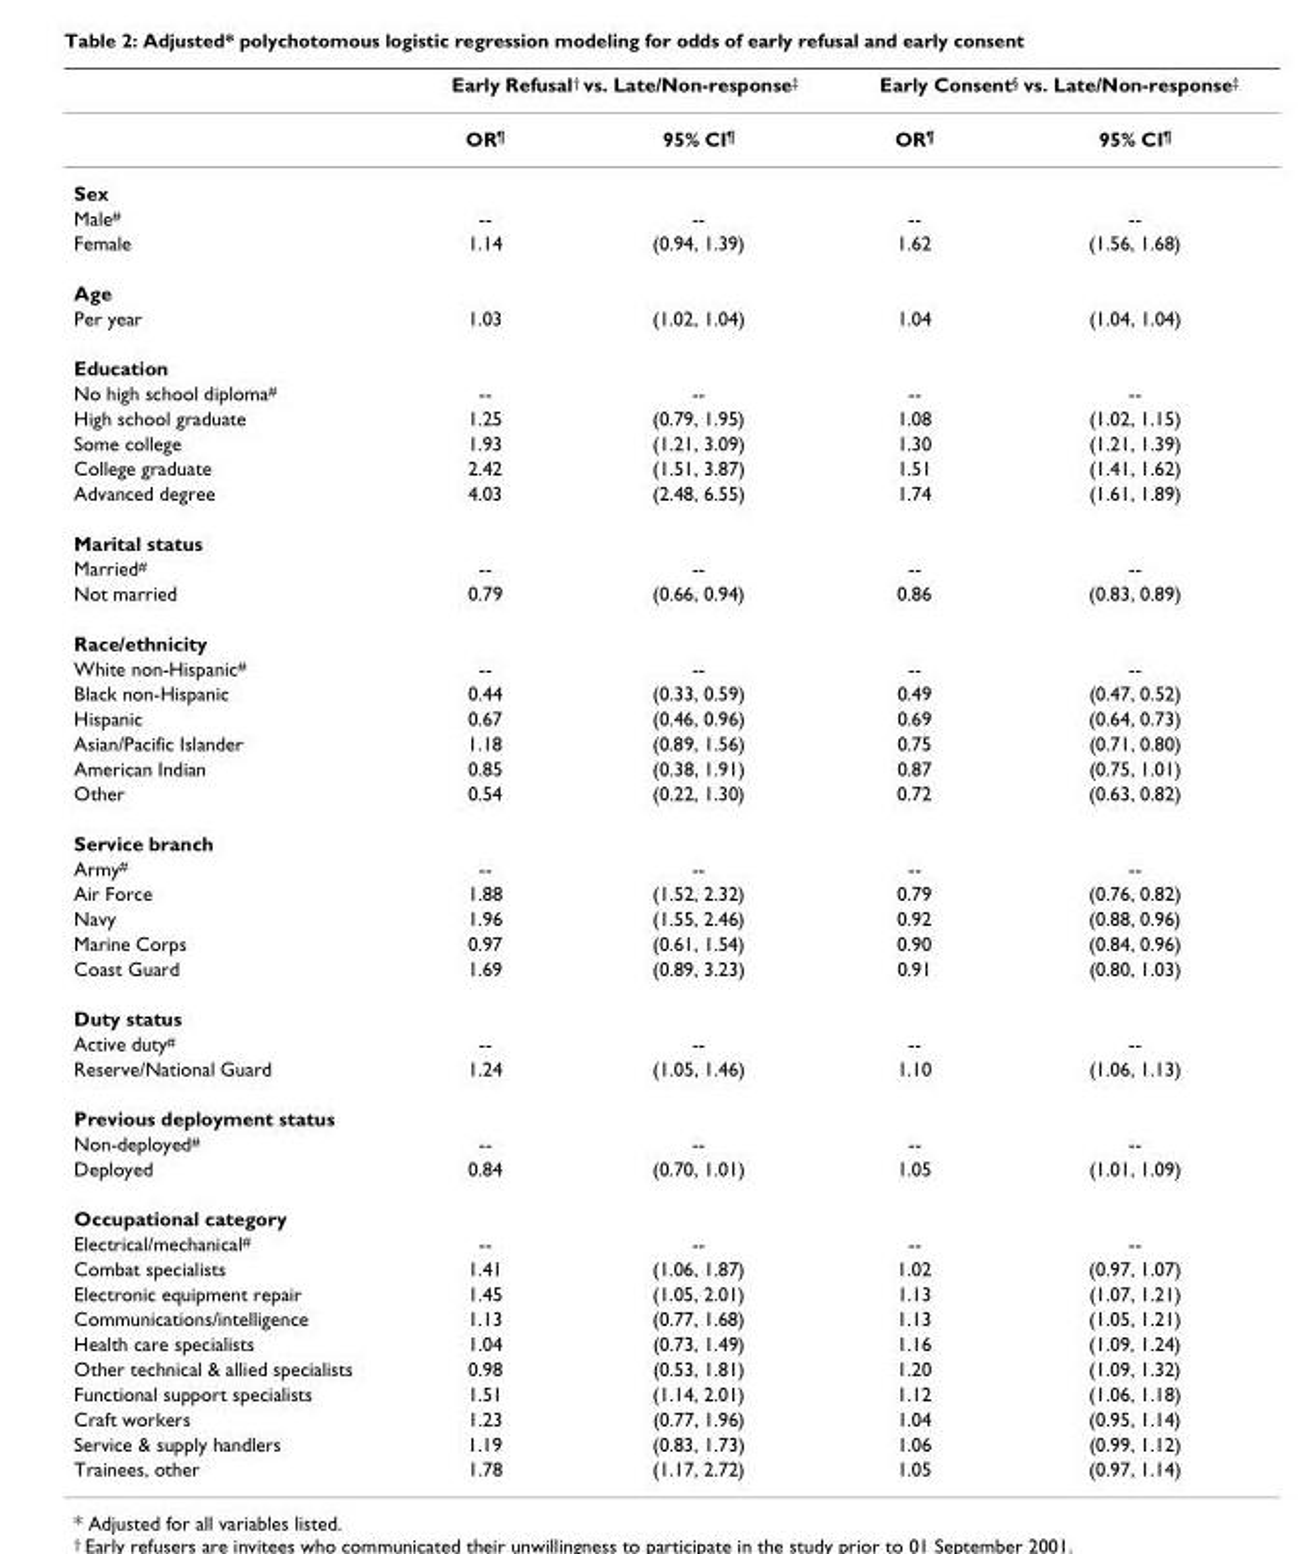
<table><thead><tr><td rowspan="2"></td><td colspan="2">Early Refusal<sup>†</sup> vs. Late/Non-response<sup>‡</sup></td><td colspan="2">Early Consent<sup>§</sup> vs. Late/Non-response<sup>‡</sup></td></tr><tr><td>OR<sup>¶</sup></td><td>95% CI<sup>¶</sup></td><td>OR<sup>¶</sup></td><td>95% CI<sup>¶</sup></td></tr></thead><tbody><tr><td colspan="5">Sex</td></tr><tr><td>Male<sup>#</sup></td><td>--</td><td>--</td><td>--</td><td>--</td></tr><tr><td>Female</td><td>1.14</td><td>(0.94, 1.39)</td><td>1.62</td><td>(1.56, 1.68)</td></tr><tr><td colspan="5">Age</td></tr><tr><td>Per year</td><td>1.03</td><td>(1.02, 1.04)</td><td>1.04</td><td>(1.04, 1.04)</td></tr><tr><td colspan="5">Education</td></tr><tr><td>No high school diploma<sup>#</sup></td><td>--</td><td>--</td><td>--</td><td>--</td></tr><tr><td>High school graduate</td><td>1.25</td><td>(0.79, 1.95)</td><td>1.08</td><td>(1.02, 1.15)</td></tr><tr><td>Some college</td><td>1.93</td><td>(1.21, 3.09)</td><td>1.30</td><td>(1.21, 1.39)</td></tr><tr><td>College graduate</td><td>2.42</td><td>(1.51, 3.87)</td><td>1.51</td><td>(1.41, 1.62)</td></tr><tr><td>Advanced degree</td><td>4.03</td><td>(2.48, 6.55)</td><td>1.74</td><td>(1.61, 1.89)</td></tr><tr><td colspan="5">Marital status</td></tr><tr><td>Married<sup>#</sup></td><td>--</td><td>--</td><td>--</td><td>--</td></tr><tr><td>Not married</td><td>0.79</td><td>(0.66, 0.94)</td><td>0.86</td><td>(0.83, 0.89)</td></tr><tr><td colspan="5">Race/ethnicity</td></tr><tr><td>White non-Hispanic<sup>#</sup></td><td>--</td><td>--</td><td>--</td><td>--</td></tr><tr><td>Black non-Hispanic</td><td>0.44</td><td>(0.33, 0.59)</td><td>0.49</td><td>(0.47, 0.52)</td></tr><tr><td>Hispanic</td><td>0.67</td><td>(0.46, 0.96)</td><td>0.69</td><td>(0.64, 0.73)</td></tr><tr><td>Asian/Pacific Islander</td><td>1.18</td><td>(0.89, 1.56)</td><td>0.75</td><td>(0.71, 0.80)</td></tr><tr><td>American Indian</td><td>0.85</td><td>(0.38, 1.91)</td><td>0.87</td><td>(0.75, 1.01)</td></tr><tr><td>Other</td><td>0.54</td><td>(0.22, 1.30)</td><td>0.72</td><td>(0.63, 0.82)</td></tr><tr><td colspan="5">Service branch</td></tr><tr><td>Army<sup>#</sup></td><td>--</td><td>--</td><td>--</td><td>--</td></tr><tr><td>Air Force</td><td>1.88</td><td>(1.52, 2.32)</td><td>0.79</td><td>(0.76, 0.82)</td></tr><tr><td>Navy</td><td>1.96</td><td>(1.55, 2.46)</td><td>0.92</td><td>(0.88, 0.96)</td></tr><tr><td>Marine Corps</td><td>0.97</td><td>(0.61, 1.54)</td><td>0.90</td><td>(0.84, 0.96)</td></tr><tr><td>Coast Guard</td><td>1.69</td><td>(0.89, 3.23)</td><td>0.91</td><td>(0.80, 1.03)</td></tr><tr><td colspan="5">Duty status</td></tr><tr><td>Active duty<sup>#</sup></td><td>--</td><td>--</td><td>--</td><td>--</td></tr><tr><td>Reserve/National Guard</td><td>1.24</td><td>(1.05, 1.46)</td><td>1.10</td><td>(1.06, 1.13)</td></tr><tr><td colspan="5">Previous deployment status</td></tr><tr><td>Non-deployed<sup>#</sup></td><td>--</td><td>--</td><td>--</td><td>--</td></tr><tr><td>Deployed</td><td>0.84</td><td>(0.70, 1.01)</td><td>1.05</td><td>(1.01, 1.09)</td></tr><tr><td colspan="5">Occupational category</td></tr><tr><td>Electrical/mechanical<sup>#</sup></td><td>--</td><td>--</td><td>--</td><td>--</td></tr><tr><td>Combat specialists</td><td>1.41</td><td>(1.06, 1.87)</td><td>1.02</td><td>(0.97, 1.07)</td></tr><tr><td>Electronic equipment repair</td><td>1.45</td><td>(1.05, 2.01)</td><td>1.13</td><td>(1.07, 1.21)</td></tr><tr><td>Communications/intelligence</td><td>1.13</td><td>(0.77, 1.68)</td><td>1.13</td><td>(1.05, 1.21)</td></tr><tr><td>Health care specialists</td><td>1.04</td><td>(0.73, 1.49)</td><td>1.16</td><td>(1.09, 1.24)</td></tr><tr><td>Other technical &amp; allied specialists</td><td>0.98</td><td>(0.53, 1.81)</td><td>1.20</td><td>(1.09, 1.32)</td></tr><tr><td>Functional support specialists</td><td>1.51</td><td>(1.14, 2.01)</td><td>1.12</td><td>(1.06, 1.18)</td></tr><tr><td>Craft workers</td><td>1.23</td><td>(0.77, 1.96)</td><td>1.04</td><td>(0.95, 1.14)</td></tr><tr><td>Service &amp; supply handlers</td><td>1.19</td><td>(0.83, 1.73)</td><td>1.06</td><td>(0.99, 1.12)</td></tr><tr><td>Trainees, other</td><td>1.78</td><td>(1.17, 2.72)</td><td>1.05</td><td>(0.97, 1.14)</td></tr></tbody></table>